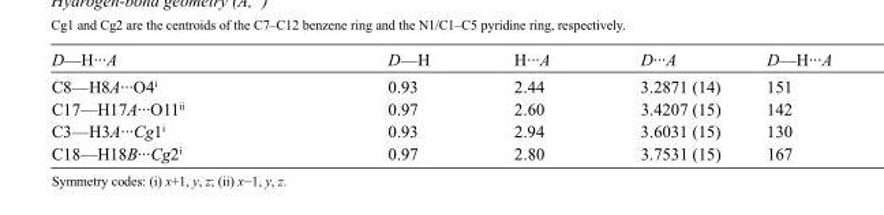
<table><tbody><tr><td>D—H···A</td><td>D—H</td><td>H···A</td><td>D···A</td><td>D—H···A</td></tr><tr><td>C8—H8A···O4<sup>i</sup></td><td>0.93</td><td>2.44</td><td>3.2871 (14)</td><td>151</td></tr><tr><td>C17—H17A···O11<sup>ii</sup></td><td>0.97</td><td>2.60</td><td>3.4207 (15)</td><td>142</td></tr><tr><td>C3—H3A···Cg1<sup>i</sup></td><td>0.93</td><td>2.94</td><td>3.6031 (15)</td><td>130</td></tr><tr><td>C18—H18B···Cg2<sup>i</sup></td><td>0.97</td><td>2.80</td><td>3.7531 (15)</td><td>167</td></tr></tbody></table>